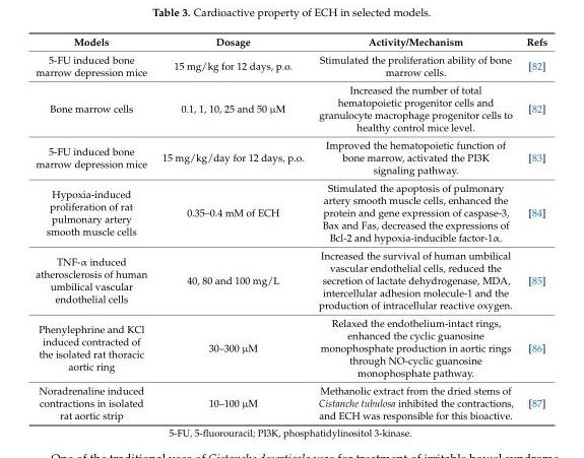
<table><thead><tr><td>Models</td><td>Dosage</td><td>Activity/Mechanism</td><td>Refs</td></tr></thead><tbody><tr><td>5-FU induced bone marrow depression mice</td><td>15 mg/kg for 12 days, p.o.</td><td>Stimulated the proliferation ability of bone marrow cells.</td><td>[82]</td></tr><tr><td>Bone marrow cells</td><td>0.1, 1, 10, 25 and 50 µM</td><td>Increased the number of total hematopoietic progenitor cells and granulocyte macrophage progenitor cells to healthy control mice level.</td><td>[82]</td></tr><tr><td>5-FU induced bone marrow depression mice</td><td>15 mg/kg/day for 12 days, p.o.</td><td>Improved the hematopoietic function of bone marrow, activated the PI3K signaling pathway.</td><td>[83]</td></tr><tr><td>Hypoxia-induced proliferation of rat pulmonary artery smooth muscle cells</td><td>0.35–0.4 mM of ECH</td><td>Stimulated the apoptosis of pulmonary artery smooth muscle cells, enhanced the protein and gene expression of caspase-3, Bax and Fas, decreased the expressions of Bcl-2 and hypoxia-inducible factor-1α.</td><td>[84]</td></tr><tr><td>TNF-α induced atherosclerosis of human umbilical vascular endothelial cells</td><td>40, 80 and 100 mg/L</td><td>Increased the survival of human umbilical vascular endothelial cells, reduced the secretion of lactate dehydrogenase, MDA, intercellular adhesion molecule-1 and the production of intracellular reactive oxygen.</td><td>[85]</td></tr><tr><td>Phenylephrine and KCl induced contracted of the isolated rat thoracic aortic ring</td><td>30–300 µM</td><td>Relaxed the endothelium-intact rings, enhanced the cyclic guanosine monophosphate production in aortic rings through NO-cyclic guanosine monophosphate pathway.</td><td>[86]</td></tr><tr><td>Noradrenaline induced contractions in isolated rat aortic strip</td><td>10–100 µM</td><td>Methanolic extract from the dried stems of Cistanche tubulosa inhibited the contractions, and ECH was responsible for this bioactive.</td><td>[87]</td></tr></tbody></table>